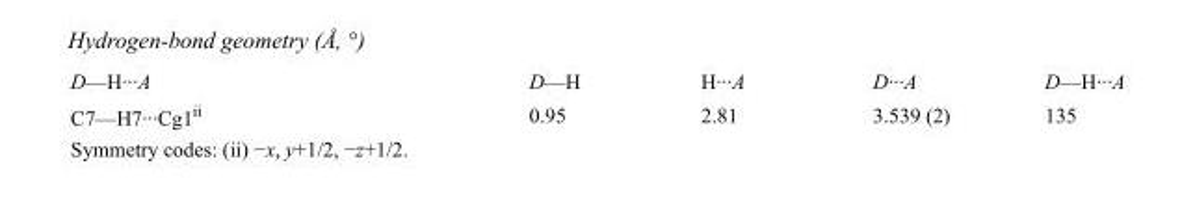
<table><tbody><tr><td>D—H···A</td><td>D—H</td><td>H···A</td><td>D···A</td><td>D—H···A</td></tr><tr><td>C7—H7···Cg1<sup>ii</sup></td><td>0.95</td><td>2.81</td><td>3.539 (2)</td><td>135</td></tr></tbody></table>